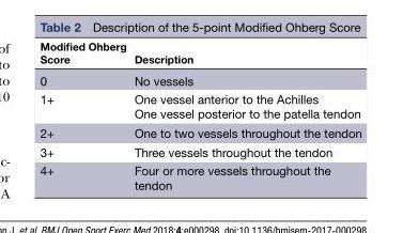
<table><thead><tr><td>Modified Ohberg Score</td><td>Description</td></tr></thead><tbody><tr><td>0</td><td>No vessels</td></tr><tr><td>1+</td><td>One vessel anterior to the Achilles One vessel posterior to the patella tendon</td></tr><tr><td>2+</td><td>One to two vessels throughout the tendon</td></tr><tr><td>3+</td><td>Three vessels throughout the tendon</td></tr><tr><td>4+</td><td>Four or more vessels throughout the tendon</td></tr></tbody></table>